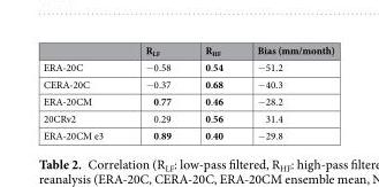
<table><thead><tr><td></td><td>R<sub>LF</sub></td><td>R<sub>HF</sub></td><td>Bias (mm/month)</td></tr></thead><tbody><tr><td>ERA-20C</td><td>−0.58</td><td>0.54</td><td>−51.2</td></tr><tr><td>CERA-20C</td><td>−0.37</td><td>0.68</td><td>−40.3</td></tr><tr><td>ERA-20CM</td><td>0.77</td><td>0.46</td><td>−28.2</td></tr><tr><td>20CRv2</td><td>0.29</td><td>0.56</td><td>31.4</td></tr><tr><td>ERA-20CM e3</td><td>0.89</td><td>0.40</td><td>−29.8</td></tr></tbody></table>